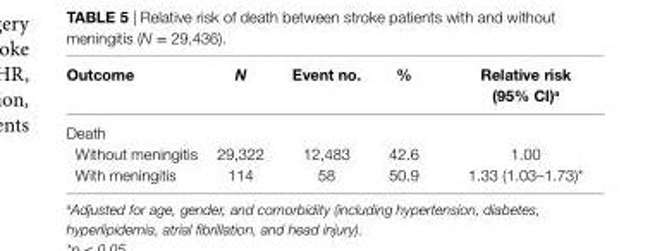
<table><thead><tr><td>Outcome</td><td>N</td><td>event no.</td><td>%</td><td>relative risk (95% ci)<sup>a</sup></td></tr></thead><tbody><tr><td colspan="5">Death</td></tr><tr><td>Without meningitis</td><td>29,322</td><td>12,483</td><td>42.6</td><td>1.00</td></tr><tr><td>With meningitis</td><td>114</td><td>58</td><td>50.9</td><td>1.33 (1.03–1.73)*</td></tr></tbody></table>